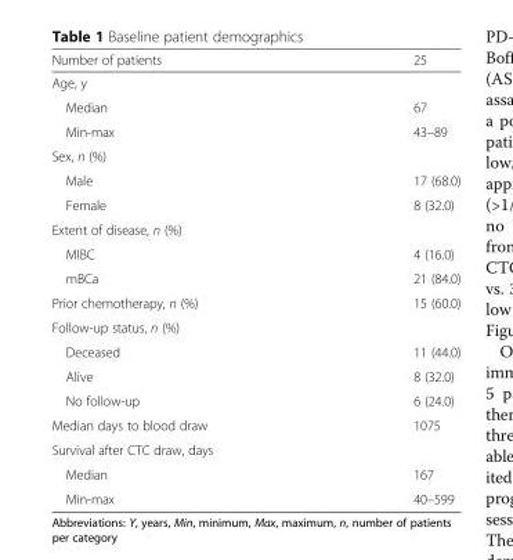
<table><thead><tr><td>Number of patients</td><td>25</td></tr></thead><tbody><tr><td colspan="2">Age, y</td></tr><tr><td>Median</td><td>67</td></tr><tr><td>Min-max</td><td>43–89</td></tr><tr><td colspan="2">Sex, n (%)</td></tr><tr><td>Male</td><td>17 (68.0)</td></tr><tr><td>Female</td><td>8 (32.0)</td></tr><tr><td colspan="2">Extent of disease, n (%)</td></tr><tr><td>MIBC</td><td>4 (16.0)</td></tr><tr><td>mBCa</td><td>21 (84.0)</td></tr><tr><td>Prior chemotherapy, n (%)</td><td>15 (60.0)</td></tr><tr><td colspan="2">Follow-up status, n (%)</td></tr><tr><td>Deceased</td><td>11 (44.0)</td></tr><tr><td>Alive</td><td>8 (32.0)</td></tr><tr><td>No follow-up</td><td>6 (24.0)</td></tr><tr><td>Median days to blood draw</td><td>1075</td></tr><tr><td colspan="2">Survival after CTC draw, days</td></tr><tr><td>Median</td><td>167</td></tr><tr><td>Min-max</td><td>40–599</td></tr></tbody></table>